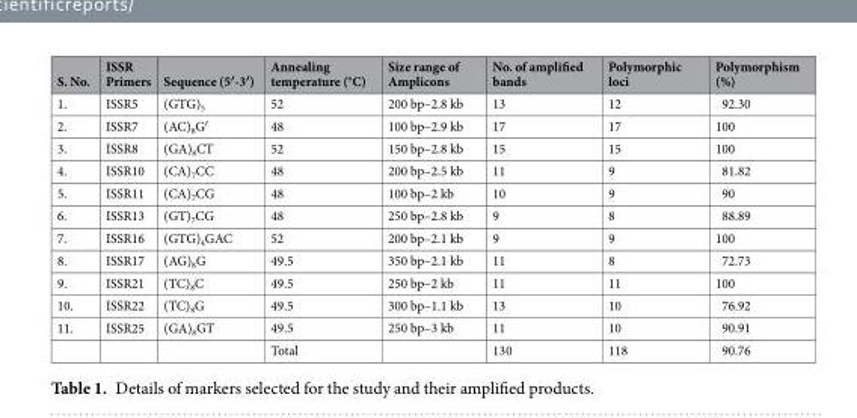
<table><thead><tr><td>S. No.</td><td>ISSR Primers</td><td>Sequence (5′-3′)</td><td>Annealing temperature (°C)</td><td>Size range of Amplicons</td><td>No. of amplified bands</td><td>Polymorphic loci</td><td>Polymorphism (%)</td></tr></thead><tbody><tr><td>1.</td><td>ISSR5</td><td>(GTG)<sub>5</sub></td><td>52</td><td>200 bp–2.8 kb</td><td>13</td><td>12</td><td>92.30</td></tr><tr><td>2.</td><td>ISSR7</td><td>(AC)<sub>8</sub>G′</td><td>48</td><td>100 bp–2.9 kb</td><td>17</td><td>17</td><td>100</td></tr><tr><td>3.</td><td>ISSR8</td><td>(GA)<sub>8</sub>CT</td><td>52</td><td>150 bp–2.8 kb</td><td>15</td><td>15</td><td>100</td></tr><tr><td>4.</td><td>ISSR10</td><td>(CA)<sub>7</sub>CC</td><td>48</td><td>200 bp–2.5 kb</td><td>11</td><td>9</td><td>81.82</td></tr><tr><td>5.</td><td>ISSR11</td><td>(CA)<sub>7</sub>CG</td><td>48</td><td>100 bp–2 kb</td><td>10</td><td>9</td><td>90</td></tr><tr><td>6.</td><td>ISSR13</td><td>(GT)<sub>7</sub>CG</td><td>48</td><td>250 bp–2.8 kb</td><td>9</td><td>8</td><td>88.89</td></tr><tr><td>7.</td><td>ISSR16</td><td>(GTG)<sub>4</sub>GAC</td><td>52</td><td>200 bp–2.1 kb</td><td>9</td><td>9</td><td>100</td></tr><tr><td>8.</td><td>ISSR17</td><td>(AG)<sub>8</sub>G</td><td>49.5</td><td>350 bp–2.1 kb</td><td>11</td><td>8</td><td>72.73</td></tr><tr><td>9.</td><td>ISSR21</td><td>(TC)<sub>8</sub>C</td><td>49.5</td><td>250 bp–2 kb</td><td>11</td><td>11</td><td>100</td></tr><tr><td>10.</td><td>ISSR22</td><td>(TC)<sub>8</sub>G</td><td>49.5</td><td>300 bp–1.1 kb</td><td>13</td><td>10</td><td>76.92</td></tr><tr><td rowspan="2">11.</td><td>ISSR25</td><td>(GA)<sub>8</sub>GT</td><td>49.5</td><td>250 bp–3 kb</td><td>11</td><td>10</td><td>90.91</td></tr><tr><td></td><td></td><td>Total</td><td></td><td>130</td><td>118</td><td>90.76</td></tr></tbody></table>